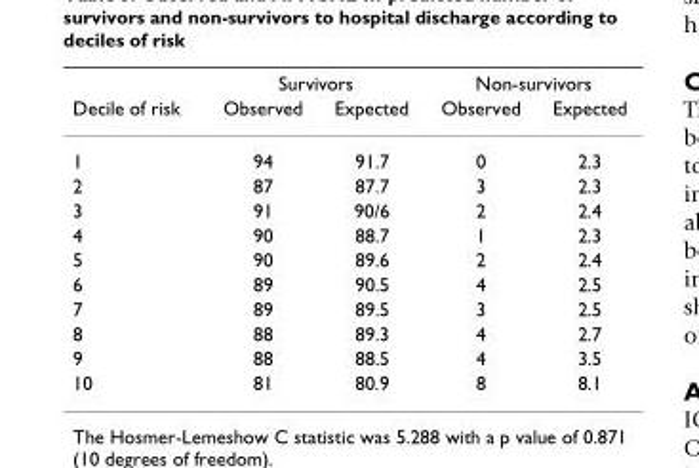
<table><thead><tr><td rowspan="2">Decile of risk</td><td colspan="2">Survivors</td><td colspan="2">Non-survivors</td></tr><tr><td>Observed</td><td>Expected</td><td>Observed</td><td>Expected</td></tr></thead><tbody><tr><td>1</td><td>94</td><td>91.7</td><td>0</td><td>2.3</td></tr><tr><td>2</td><td>87</td><td>87.7</td><td>3</td><td>2.3</td></tr><tr><td>3</td><td>91</td><td>90/6</td><td>2</td><td>2.4</td></tr><tr><td>4</td><td>90</td><td>88.7</td><td>1</td><td>2.3</td></tr><tr><td>5</td><td>90</td><td>89.6</td><td>2</td><td>2.4</td></tr><tr><td>6</td><td>89</td><td>90.5</td><td>4</td><td>2.5</td></tr><tr><td>7</td><td>89</td><td>89.5</td><td>3</td><td>2.5</td></tr><tr><td>8</td><td>88</td><td>89.3</td><td>4</td><td>2.7</td></tr><tr><td>9</td><td>88</td><td>88.5</td><td>4</td><td>3.5</td></tr><tr><td>10</td><td>81</td><td>80.9</td><td>8</td><td>8.1</td></tr></tbody></table>